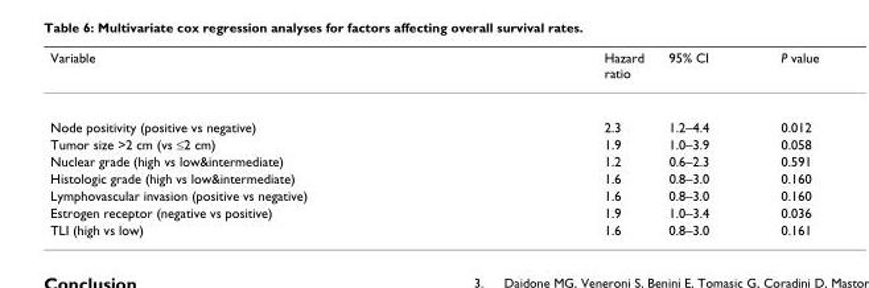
<table><thead><tr><td>Variable</td><td>Hazard ratio</td><td>95% CI</td><td>P value</td></tr></thead><tbody><tr><td>Node positivity (positive vs negative)</td><td>2.3</td><td>1.2–4.4</td><td>0.012</td></tr><tr><td>Tumor size &gt;2 cm (vs ≤2 cm)</td><td>1.9</td><td>1.0–3.9</td><td>0.058</td></tr><tr><td>Nuclear grade (high vs low&amp;intermediate)</td><td>1.2</td><td>0.6–2.3</td><td>0.591</td></tr><tr><td>Histologic grade (high vs low&amp;intermediate)</td><td>1.6</td><td>0.8–3.0</td><td>0.160</td></tr><tr><td>Lymphovascular invasion (positive vs negative)</td><td>1.6</td><td>0.8–3.0</td><td>0.160</td></tr><tr><td>Estrogen receptor (negative vs positive)</td><td>1.9</td><td>1.0–3.4</td><td>0.036</td></tr><tr><td>TLI (high vs low)</td><td>1.6</td><td>0.8–3.0</td><td>0.161</td></tr></tbody></table>